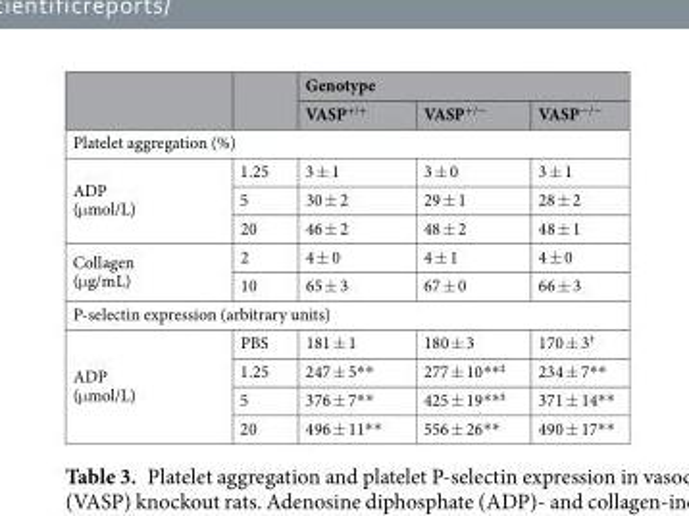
<table><thead><tr><td rowspan="2"></td><td rowspan="2"></td><td colspan="3">Genotype</td></tr><tr><td>VASP<sup>+/+</sup></td><td>VASP<sup>+/−</sup></td><td>VASP<sup>−/−</sup></td></tr></thead><tbody><tr><td colspan="5">Platelet aggregation (%)</td></tr><tr><td rowspan="3">ADP (μmol/L)</td><td>1.25</td><td>3 ± 1</td><td>3 ± 0</td><td>3 ± 1</td></tr><tr><td>5</td><td>30 ± 2</td><td>29 ± 1</td><td>28 ± 2</td></tr><tr><td>20</td><td>46 ± 2</td><td>48 ± 2</td><td>48 ± 1</td></tr><tr><td rowspan="2">Collagen (μg/mL)</td><td>2</td><td>4 ± 0</td><td>4 ± 1</td><td>4 ± 0</td></tr><tr><td>10</td><td>65 ± 3</td><td>67 ± 0</td><td>66 ± 3</td></tr><tr><td colspan="5">P-selectin expression (arbitrary units)</td></tr><tr><td rowspan="4">ADP (μmol/L)</td><td>PBS</td><td>181 ± 1</td><td>180 ± 3</td><td>170 ± 3<sup>†</sup></td></tr><tr><td>1.25</td><td>247 ± 5**</td><td>277 ± 10**<sup>‡</sup></td><td>234 ± 7**</td></tr><tr><td>5</td><td>376 ± 7**</td><td>425 ± 19**<sup>‡</sup></td><td>371 ± 14**</td></tr><tr><td>20</td><td>496 ± 11**</td><td>556 ± 26**</td><td>490 ± 17**</td></tr></tbody></table>